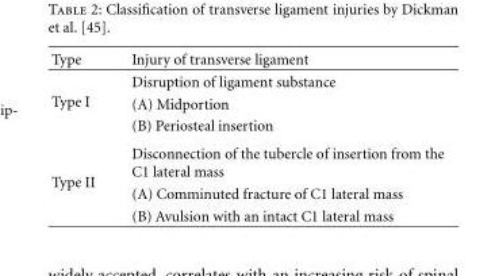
<table><thead><tr><td>Type</td><td>Injury of transverse ligament</td></tr></thead><tbody><tr><td rowspan="3">Type I</td><td>Disruption of ligament substance</td></tr><tr><td>(A) Midportion</td></tr><tr><td>(B) Periosteal insertion</td></tr><tr><td rowspan="3">Type II</td><td>Disconnection of the tubercle of insertion from the C1 lateral mass</td></tr><tr><td>(A) Comminuted fracture of C1 lateral mass</td></tr><tr><td>(B) Avulsion with an intact C1 lateral mass</td></tr></tbody></table>